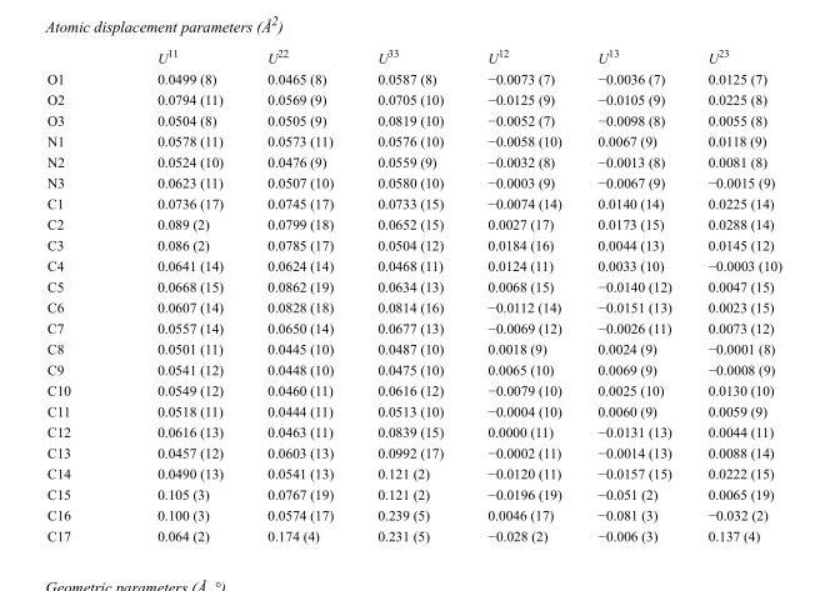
<table><thead><tr><td></td><td>U<sup>11</sup></td><td>U<sup>22</sup></td><td>U<sup>33</sup></td><td>U<sup>12</sup></td><td>U<sup>13</sup></td><td>U<sup>23</sup></td></tr></thead><tbody><tr><td>O1</td><td>0.0499 (8)</td><td>0.0465 (8)</td><td>0.0587 (8)</td><td>−0.0073 (7)</td><td>−0.0036 (7)</td><td>0.0125 (7)</td></tr><tr><td>O2</td><td>0.0794 (11)</td><td>0.0569 (9)</td><td>0.0705 (10)</td><td>−0.0125 (9)</td><td>−0.0105 (9)</td><td>0.0225 (8)</td></tr><tr><td>O3</td><td>0.0504 (8)</td><td>0.0505 (9)</td><td>0.0819 (10)</td><td>−0.0052 (7)</td><td>−0.0098 (8)</td><td>0.0055 (8)</td></tr><tr><td>N1</td><td>0.0578 (11)</td><td>0.0573 (11)</td><td>0.0576 (10)</td><td>−0.0058 (10)</td><td>0.0067 (9)</td><td>0.0118 (9)</td></tr><tr><td>N2</td><td>0.0524 (10)</td><td>0.0476 (9)</td><td>0.0559 (9)</td><td>−0.0032 (8)</td><td>−0.0013 (8)</td><td>0.0081 (8)</td></tr><tr><td>N3</td><td>0.0623 (11)</td><td>0.0507 (10)</td><td>0.0580 (10)</td><td>−0.0003 (9)</td><td>−0.0067 (9)</td><td>−0.0015 (9)</td></tr><tr><td>C1</td><td>0.0736 (17)</td><td>0.0745 (17)</td><td>0.0733 (15)</td><td>−0.0074 (14)</td><td>0.0140 (14)</td><td>0.0225 (14)</td></tr><tr><td>C2</td><td>0.089 (2)</td><td>0.0799 (18)</td><td>0.0652 (15)</td><td>0.0027 (17)</td><td>0.0173 (15)</td><td>0.0288 (14)</td></tr><tr><td>C3</td><td>0.086 (2)</td><td>0.0785 (17)</td><td>0.0504 (12)</td><td>0.0184 (16)</td><td>0.0044 (13)</td><td>0.0145 (12)</td></tr><tr><td>C4</td><td>0.0641 (14)</td><td>0.0624 (14)</td><td>0.0468 (11)</td><td>0.0124 (11)</td><td>0.0033 (10)</td><td>−0.0003 (10)</td></tr><tr><td>C5</td><td>0.0668 (15)</td><td>0.0862 (19)</td><td>0.0634 (13)</td><td>0.0068 (15)</td><td>−0.0140 (12)</td><td>0.0047 (15)</td></tr><tr><td>C6</td><td>0.0607 (14)</td><td>0.0828 (18)</td><td>0.0814 (16)</td><td>−0.0112 (14)</td><td>−0.0151 (13)</td><td>0.0023 (15)</td></tr><tr><td>C7</td><td>0.0557 (14)</td><td>0.0650 (14)</td><td>0.0677 (13)</td><td>−0.0069 (12)</td><td>−0.0026 (11)</td><td>0.0073 (12)</td></tr><tr><td>C8</td><td>0.0501 (11)</td><td>0.0445 (10)</td><td>0.0487 (10)</td><td>0.0018 (9)</td><td>0.0024 (9)</td><td>−0.0001 (8)</td></tr><tr><td>C9</td><td>0.0541 (12)</td><td>0.0448 (10)</td><td>0.0475 (10)</td><td>0.0065 (10)</td><td>0.0069 (9)</td><td>−0.0008 (9)</td></tr><tr><td>C10</td><td>0.0549 (12)</td><td>0.0460 (11)</td><td>0.0616 (12)</td><td>−0.0079 (10)</td><td>0.0025 (10)</td><td>0.0130 (10)</td></tr><tr><td>C11</td><td>0.0518 (11)</td><td>0.0444 (11)</td><td>0.0513 (10)</td><td>−0.0004 (10)</td><td>0.0060 (9)</td><td>0.0059 (9)</td></tr><tr><td>C12</td><td>0.0616 (13)</td><td>0.0463 (11)</td><td>0.0839 (15)</td><td>0.0000 (11)</td><td>−0.0131 (13)</td><td>0.0044 (11)</td></tr><tr><td>C13</td><td>0.0457 (12)</td><td>0.0603 (13)</td><td>0.0992 (17)</td><td>−0.0002 (11)</td><td>−0.0014 (13)</td><td>0.0088 (14)</td></tr><tr><td>C14</td><td>0.0490 (13)</td><td>0.0541 (13)</td><td>0.121 (2)</td><td>−0.0120 (11)</td><td>−0.0157 (15)</td><td>0.0222 (15)</td></tr><tr><td>C15</td><td>0.105 (3)</td><td>0.0767 (19)</td><td>0.121 (2)</td><td>−0.0196 (19)</td><td>−0.051 (2)</td><td>0.0065 (19)</td></tr><tr><td>C16</td><td>0.100 (3)</td><td>0.0574 (17)</td><td>0.239 (5)</td><td>0.0046 (17)</td><td>−0.081 (3)</td><td>−0.032 (2)</td></tr><tr><td>C17</td><td>0.064 (2)</td><td>0.174 (4)</td><td>0.231 (5)</td><td>−0.028 (2)</td><td>−0.006 (3)</td><td>0.137 (4)</td></tr></tbody></table>